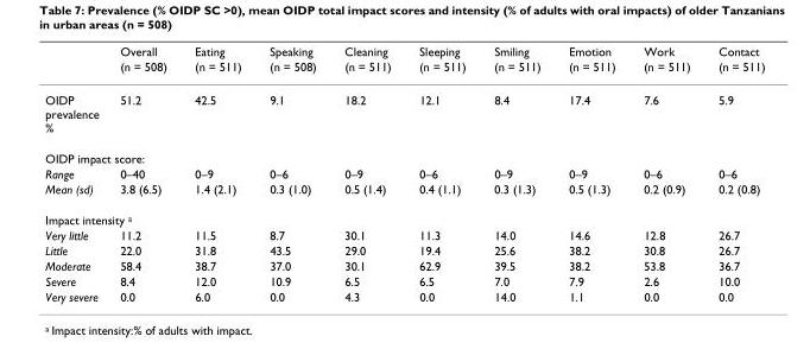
<table><thead><tr><td rowspan="2"></td><td rowspan="2">Overall (n = 508)</td><td rowspan="2">Eating (n = 511)</td><td rowspan="2">Speaking (n = 508)</td><td rowspan="2">Cleaning (n = 511)</td><td rowspan="2">Sleeping (n = 511)</td><td rowspan="2">Smiling (n = 511)</td><td rowspan="2">Emotion (n = 511)</td><td rowspan="2">Work (n = 511)</td><td rowspan="2">Contact (n = 511)</td></tr><tr></tr></thead><tbody><tr><td>OIDP prevalence %</td><td>51.2</td><td>42.5</td><td>9.1</td><td>18.2</td><td>12.1</td><td>8.4</td><td>17.4</td><td>7.6</td><td>5.9</td></tr><tr><td colspan="10">OIDP impact score:</td></tr><tr><td>Range</td><td>0–40</td><td>0–9</td><td>0–6</td><td>0–9</td><td>0–6</td><td>0–9</td><td>0–9</td><td>0–6</td><td>0–6</td></tr><tr><td>Mean (sd)</td><td>3.8 (6.5)</td><td>1.4 (2.1)</td><td>0.3 (1.0)</td><td>0.5 (1.4)</td><td>0.4 (1.1)</td><td>0.3 (1.3)</td><td>0.5 (1.3)</td><td>0.2 (0.9)</td><td>0.2 (0.8)</td></tr><tr><td colspan="10">Impact intensity <sup>a</sup></td></tr><tr><td>Very little</td><td>11.2</td><td>11.5</td><td>8.7</td><td>30.1</td><td>11.3</td><td>14.0</td><td>14.6</td><td>12.8</td><td>26.7</td></tr><tr><td>Little</td><td>22.0</td><td>31.8</td><td>43.5</td><td>29.0</td><td>19.4</td><td>25.6</td><td>38.2</td><td>30.8</td><td>26.7</td></tr><tr><td>Moderate</td><td>58.4</td><td>38.7</td><td>37.0</td><td>30.1</td><td>62.9</td><td>39.5</td><td>38.2</td><td>53.8</td><td>36.7</td></tr><tr><td>Severe</td><td>8.4</td><td>12.0</td><td>10.9</td><td>6.5</td><td>6.5</td><td>7.0</td><td>7.9</td><td>2.6</td><td>10.0</td></tr><tr><td>Very severe</td><td>0.0</td><td>6.0</td><td>0.0</td><td>4.3</td><td>0.0</td><td>14.0</td><td>1.1</td><td>0.0</td><td>0.0</td></tr></tbody></table>